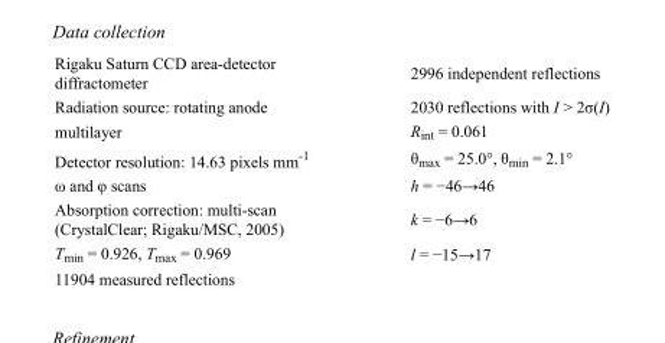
<table><tbody><tr><td>Rigaku Saturn CCD area-detector diffractometer</td><td>2996 independent reflections</td></tr><tr><td>Radiation source: rotating anode</td><td>2030 reflections with I &gt; 2σ(I)</td></tr><tr><td>multilayer</td><td>R<sub>int</sub> = 0.061</td></tr><tr><td>Detector resolution: 14.63 pixels mm<sup>-1</sup></td><td>θ<sub>max</sub> = 25.0°, θ<sub>min</sub> = 2.1°</td></tr><tr><td>ω and φ scans</td><td>h = −46→46</td></tr><tr><td>Absorption correction: multi-scan (CrystalClear; Rigaku/MSC, 2005)</td><td>k = −6→6</td></tr><tr><td>T<sub>min</sub> = 0.926, T<sub>max</sub> = 0.969</td><td>l = −15→17</td></tr><tr><td>11904 measured reflections</td><td></td></tr></tbody></table>